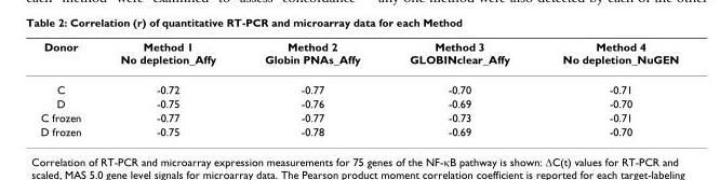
<table><thead><tr><td>Donor</td><td>Method 1 No depletion_Affy</td><td>Method 2 Globin PNAs_Affy</td><td>Method 3 GLOBINclear_Affy</td><td>Method 4 No depletion_NuGEN</td></tr></thead><tbody><tr><td>C</td><td>-0.72</td><td>-0.77</td><td>-0.70</td><td>-0.71</td></tr><tr><td>D</td><td>-0.75</td><td>-0.76</td><td>-0.69</td><td>-0.70</td></tr><tr><td>C frozen</td><td>-0.77</td><td>-0.77</td><td>-0.73</td><td>-0.71</td></tr><tr><td>D frozen</td><td>-0.75</td><td>-0.78</td><td>-0.69</td><td>-0.70</td></tr></tbody></table>